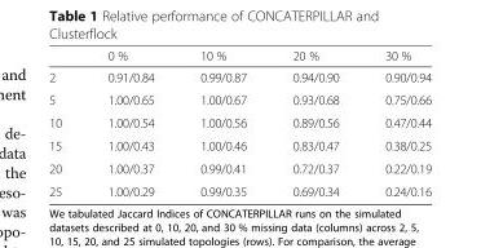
<table><thead><tr><td></td><td>0 %</td><td>10 %</td><td>20 %</td><td>30 %</td></tr></thead><tbody><tr><td>2</td><td>0.91/0.84</td><td>0.99/0.87</td><td>0.94/0.90</td><td>0.90/0.94</td></tr><tr><td>5</td><td>1.00/0.65</td><td>1.00/0.67</td><td>0.93/0.68</td><td>0.75/0.66</td></tr><tr><td>10</td><td>1.00/0.54</td><td>1.00/0.56</td><td>0.89/0.56</td><td>0.47/0.44</td></tr><tr><td>15</td><td>1.00/0.43</td><td>1.00/0.46</td><td>0.83/0.47</td><td>0.38/0.25</td></tr><tr><td>20</td><td>1.00/0.37</td><td>0.99/0.41</td><td>0.72/0.37</td><td>0.22/0.19</td></tr><tr><td>25</td><td>1.00/0.29</td><td>0.99/0.35</td><td>0.69/0.34</td><td>0.24/0.16</td></tr></tbody></table>